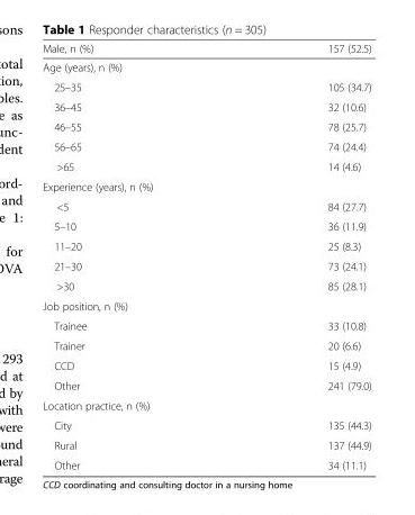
<table><thead><tr><td>Male, n (%)</td><td>157 (52.5)</td></tr></thead><tbody><tr><td colspan="2">Age (years), n (%)</td></tr><tr><td>25–35</td><td>105 (34.7)</td></tr><tr><td>36–45</td><td>32 (10.6)</td></tr><tr><td>46–55</td><td>78 (25.7)</td></tr><tr><td>56–65</td><td>74 (24.4)</td></tr><tr><td>&gt;65</td><td>14 (4.6)</td></tr><tr><td colspan="2">Experience (years), n (%)</td></tr><tr><td>&lt;5</td><td>84 (27.7)</td></tr><tr><td>5–10</td><td>36 (11.9)</td></tr><tr><td>11–20</td><td>25 (8.3)</td></tr><tr><td>21–30</td><td>73 (24.1)</td></tr><tr><td>&gt;30</td><td>85 (28.1)</td></tr><tr><td colspan="2">Job position, n (%)</td></tr><tr><td>Trainee</td><td>33 (10.8)</td></tr><tr><td>Trainer</td><td>20 (6.6)</td></tr><tr><td>CCD</td><td>15 (4.9)</td></tr><tr><td>Other</td><td>241 (79.0)</td></tr><tr><td colspan="2">Location practice, n (%)</td></tr><tr><td>City</td><td>135 (44.3)</td></tr><tr><td>Rural</td><td>137 (44.9)</td></tr><tr><td>Other</td><td>34 (11.1)</td></tr></tbody></table>